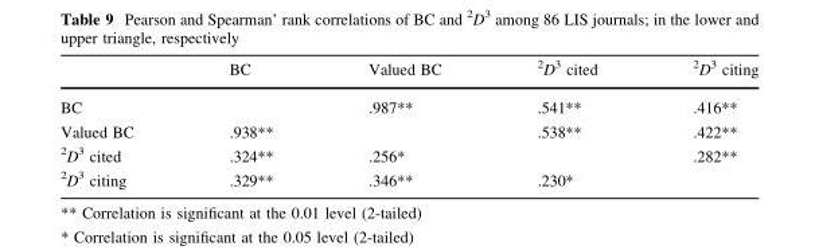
<table><thead><tr><td></td><td>BC</td><td>Valued BC</td><td><sup>2</sup>D<sup>3</sup> cited</td><td><sup>2</sup>D<sup>3</sup> citing</td></tr></thead><tbody><tr><td>BC</td><td></td><td>.987**</td><td>.541**</td><td>.416**</td></tr><tr><td>Valued BC</td><td>.938**</td><td></td><td>.538**</td><td>.422**</td></tr><tr><td><sup>2</sup>D<sup>3</sup> cited</td><td>.324**</td><td>.256*</td><td></td><td>.282**</td></tr><tr><td><sup>2</sup>D<sup>3</sup> citing</td><td>.329**</td><td>.346**</td><td>.230*</td><td></td></tr></tbody></table>